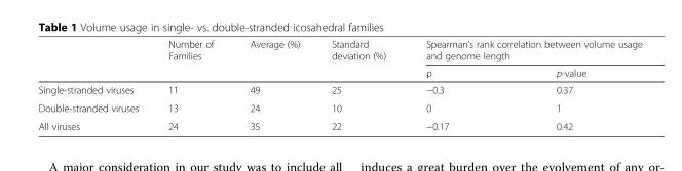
<table><thead><tr><td rowspan="2"></td><td rowspan="2">Number of Families</td><td rowspan="2">Average (%)</td><td rowspan="2">Standard deviation (%)</td><td colspan="2">Spearman’s rank correlation between volume usage and genome length</td></tr><tr><td>ρ</td><td>p-value</td></tr></thead><tbody><tr><td>Single-stranded viruses</td><td>11</td><td>49</td><td>25</td><td>−0.3</td><td>0.37</td></tr><tr><td>Double-stranded viruses</td><td>13</td><td>24</td><td>10</td><td>0</td><td>1</td></tr><tr><td>All viruses</td><td>24</td><td>35</td><td>22</td><td>−0.17</td><td>0.42</td></tr></tbody></table>